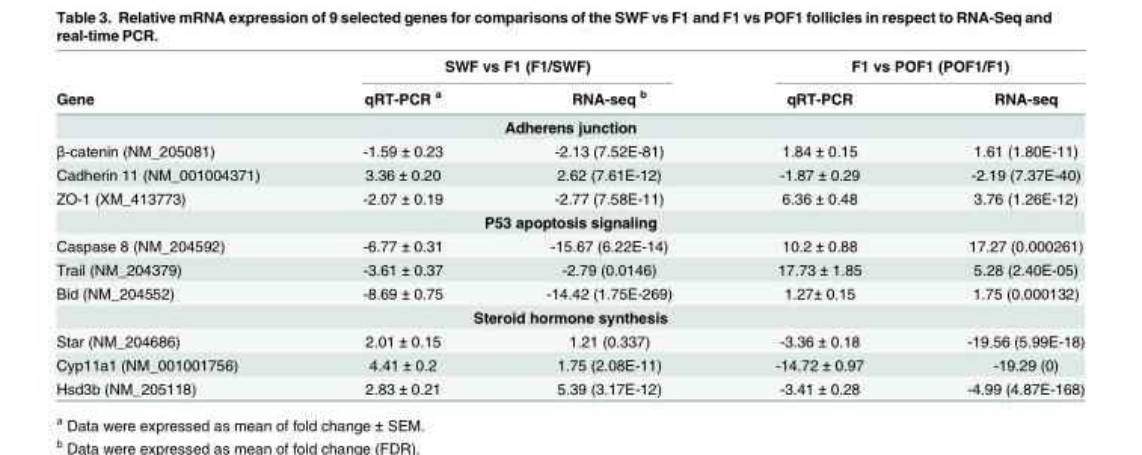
<table><thead><tr><td rowspan="2">Gene</td><td colspan="2">SWF vs F1 (F1/SWF)</td><td colspan="2">F1 vs POF1 (POF1/F1)</td></tr><tr><td>qRT-PCR <sup>a</sup></td><td>RNA-seq <sup>b</sup></td><td>qRT-PCR</td><td>RNA-seq</td></tr></thead><tbody><tr><td colspan="5">Adherens junction</td></tr><tr><td>β-catenin (NM_205081)</td><td>-1.59 ± 0.23</td><td>-2.13 (7.52E-81)</td><td>1.84 ± 0.15</td><td>1.61 (1.80E-11)</td></tr><tr><td>Cadherin 11 (NM_001004371)</td><td>3.36 ± 0.20</td><td>2.62 (7.61E-12)</td><td>-1.87 ± 0.29</td><td>-2.19 (7.37E-40)</td></tr><tr><td>ZO-1 (XM_413773)</td><td>-2.07 ± 0.19</td><td>-2.77 (7.58E-11)</td><td>6.36 ± 0.48</td><td>3.76 (1.26E-12)</td></tr><tr><td colspan="5">P53 apoptosis signaling</td></tr><tr><td>Caspase 8 (NM_204592)</td><td>-6.77 ± 0.31</td><td>-15.67 (6.22E-14)</td><td>10.2 ± 0.88</td><td>17.27 (0.000261)</td></tr><tr><td>Trail (NM_204379)</td><td>-3.61 ± 0.37</td><td>-2.79 (0.0146)</td><td>17.73 ± 1.85</td><td>5.28 (2.40E-05)</td></tr><tr><td>Bid (NM_204552)</td><td>-8.69 ± 0.75</td><td>-14.42 (1.75E-269)</td><td>1.27± 0.15</td><td>1.75 (0.000132)</td></tr><tr><td colspan="5">Steroid hormone synthesis</td></tr><tr><td>Star (NM_204686)</td><td>2.01 ± 0.15</td><td>1.21 (0.337)</td><td>-3.36 ± 0.18</td><td>-19.56 (5.99E-18)</td></tr><tr><td>Cyp11a1 (NM_001001756)</td><td>4.41 ± 0.2</td><td>1.75 (2.08E-11)</td><td>-14.72 ± 0.97</td><td>-19.29 (0)</td></tr><tr><td>Hsd3b (NM_205118)</td><td>2.83 ± 0.21</td><td>5.39 (3.17E-12)</td><td>-3.41 ± 0.28</td><td>-4.99 (4.87E-168)</td></tr></tbody></table>